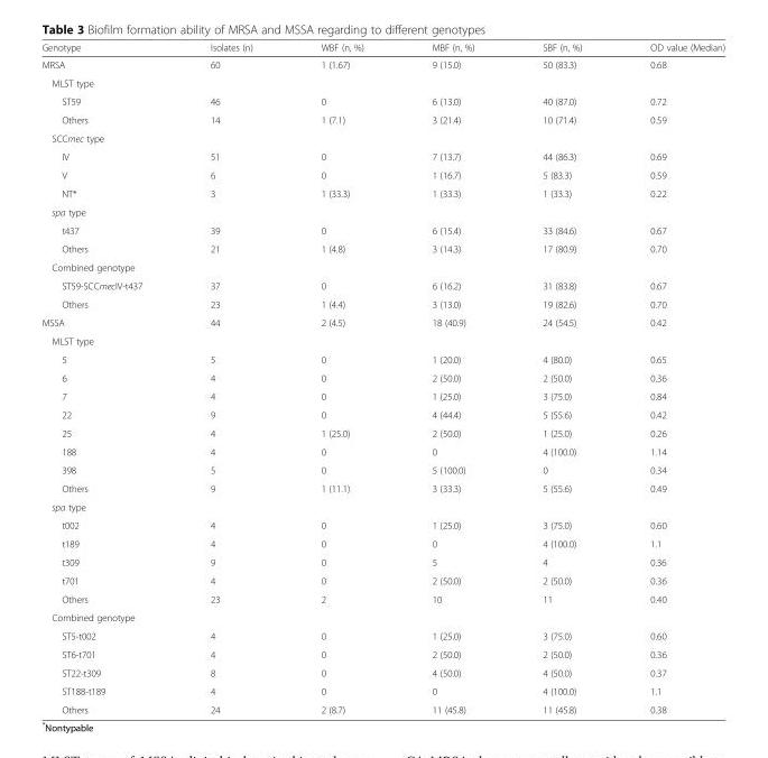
<table><thead><tr><td>Genotype</td><td>Isolates (n)</td><td>WBF (n, %)</td><td>MBF (n, %)</td><td>SBF (n, %)</td><td>OD value (Median)</td></tr></thead><tbody><tr><td>MRSA</td><td>60</td><td>1 (1.67)</td><td>9 (15.0)</td><td>50 (83.3)</td><td>0.68</td></tr><tr><td colspan="6">MLST type</td></tr><tr><td>ST59</td><td>46</td><td>0</td><td>6 (13.0)</td><td>40 (87.0)</td><td>0.72</td></tr><tr><td>Others</td><td>14</td><td>1 (7.1)</td><td>3 (21.4)</td><td>10 (71.4)</td><td>0.59</td></tr><tr><td colspan="6">SCCmec type</td></tr><tr><td>IV</td><td>51</td><td>0</td><td>7 (13.7)</td><td>44 (86.3)</td><td>0.69</td></tr><tr><td>V</td><td>6</td><td>0</td><td>1 (16.7)</td><td>5 (83.3)</td><td>0.59</td></tr><tr><td>NT*</td><td>3</td><td>1 (33.3)</td><td>1 (33.3)</td><td>1 (33.3)</td><td>0.22</td></tr><tr><td colspan="6">spa type</td></tr><tr><td>t437</td><td>39</td><td>0</td><td>6 (15.4)</td><td>33 (84.6)</td><td>0.67</td></tr><tr><td>Others</td><td>21</td><td>1 (4.8)</td><td>3 (14.3)</td><td>17 (80.9)</td><td>0.70</td></tr><tr><td colspan="6">Combined genotype</td></tr><tr><td>ST59-SCCmecIV-t437</td><td>37</td><td>0</td><td>6 (16.2)</td><td>31 (83.8)</td><td>0.67</td></tr><tr><td>Others</td><td>23</td><td>1 (4.4)</td><td>3 (13.0)</td><td>19 (82.6)</td><td>0.70</td></tr><tr><td>MSSA</td><td>44</td><td>2 (4.5)</td><td>18 (40.9)</td><td>24 (54.5)</td><td>0.42</td></tr><tr><td colspan="6">MLST type</td></tr><tr><td>5</td><td>5</td><td>0</td><td>1 (20.0)</td><td>4 (80.0)</td><td>0.65</td></tr><tr><td>6</td><td>4</td><td>0</td><td>2 (50.0)</td><td>2 (50.0)</td><td>0.36</td></tr><tr><td>7</td><td>4</td><td>0</td><td>1 (25.0)</td><td>3 (75.0)</td><td>0.84</td></tr><tr><td>22</td><td>9</td><td>0</td><td>4 (44.4)</td><td>5 (55.6)</td><td>0.42</td></tr><tr><td>25</td><td>4</td><td>1 (25.0)</td><td>2 (50.0)</td><td>1 (25.0)</td><td>0.26</td></tr><tr><td>188</td><td>4</td><td>0</td><td>0</td><td>4 (100.0)</td><td>1.14</td></tr><tr><td>398</td><td>5</td><td>0</td><td>5 (100.0)</td><td>0</td><td>0.34</td></tr><tr><td>Others</td><td>9</td><td>1 (11.1)</td><td>3 (33.3)</td><td>5 (55.6)</td><td>0.49</td></tr><tr><td colspan="6">spa type</td></tr><tr><td>t002</td><td>4</td><td>0</td><td>1 (25.0)</td><td>3 (75.0)</td><td>0.60</td></tr><tr><td>t189</td><td>4</td><td>0</td><td>0</td><td>4 (100.0)</td><td>1.1</td></tr><tr><td>t309</td><td>9</td><td>0</td><td>5</td><td>4</td><td>0.36</td></tr><tr><td>t701</td><td>4</td><td>0</td><td>2 (50.0)</td><td>2 (50.0)</td><td>0.36</td></tr><tr><td>Others</td><td>23</td><td>2</td><td>10</td><td>11</td><td>0.40</td></tr><tr><td colspan="6">Combined genotype</td></tr><tr><td>ST5-t002</td><td>4</td><td>0</td><td>1 (25.0)</td><td>3 (75.0)</td><td>0.60</td></tr><tr><td>ST6-t701</td><td>4</td><td>0</td><td>2 (50.0)</td><td>2 (50.0)</td><td>0.36</td></tr><tr><td>ST22-t309</td><td>8</td><td>0</td><td>4 (50.0)</td><td>4 (50.0)</td><td>0.37</td></tr><tr><td>ST188-t189</td><td>4</td><td>0</td><td>0</td><td>4 (100.0)</td><td>1.1</td></tr><tr><td>Others</td><td>24</td><td>2 (8.7)</td><td>11 (45.8)</td><td>11 (45.8)</td><td>0.38</td></tr></tbody></table>